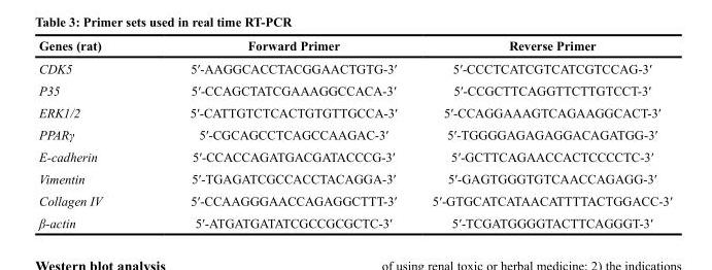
<table><thead><tr><td>Genes (rat)</td><td>Forward Primer</td><td>Reverse Primer</td></tr></thead><tbody><tr><td>CDK5</td><td>5′-AAGGCACCTACGGAACTGTG-3′</td><td>5′-CCCTCATCGTCATCGTCCAG-3′</td></tr><tr><td>P35</td><td>5′-CCAGCTATCGAAAGGCCACA-3′</td><td>5′-CCGCTTCAGGTTCTTGTCCT-3′</td></tr><tr><td>ERK1/2</td><td>5′-CATTGTCTCACTGTGTTGCCA-3′</td><td>5′-CCAGGAAAGTCAGAAGGCACT-3′</td></tr><tr><td>PPARγ</td><td>5′-CGCAGCCTCAGCCAAGAC-3′</td><td>5′-TGGGGAGAGAGGACAGATGG-3′</td></tr><tr><td>E-cadherin</td><td>5′-CCACCAGATGACGATACCCG-3′</td><td>5′-GCTTCAGAACCACTCCCCTC-3′</td></tr><tr><td>Vimentin</td><td>5′-TGAGATCGCCACCTACAGGA-3′</td><td>5′-GAGTGGGTGTCAACCAGAGG-3′</td></tr><tr><td>Collagen IV</td><td>5′-CCAAGGGAACCAGAGGCTTT-3′</td><td>5′-GTGCATCATAACATTTTACTGGACC-3′</td></tr><tr><td>β-actin</td><td>5′-ATGATGATATCGCCGCGCTC-3′</td><td>5′-TCGATGGGGTACTTCAGGGT-3′</td></tr></tbody></table>